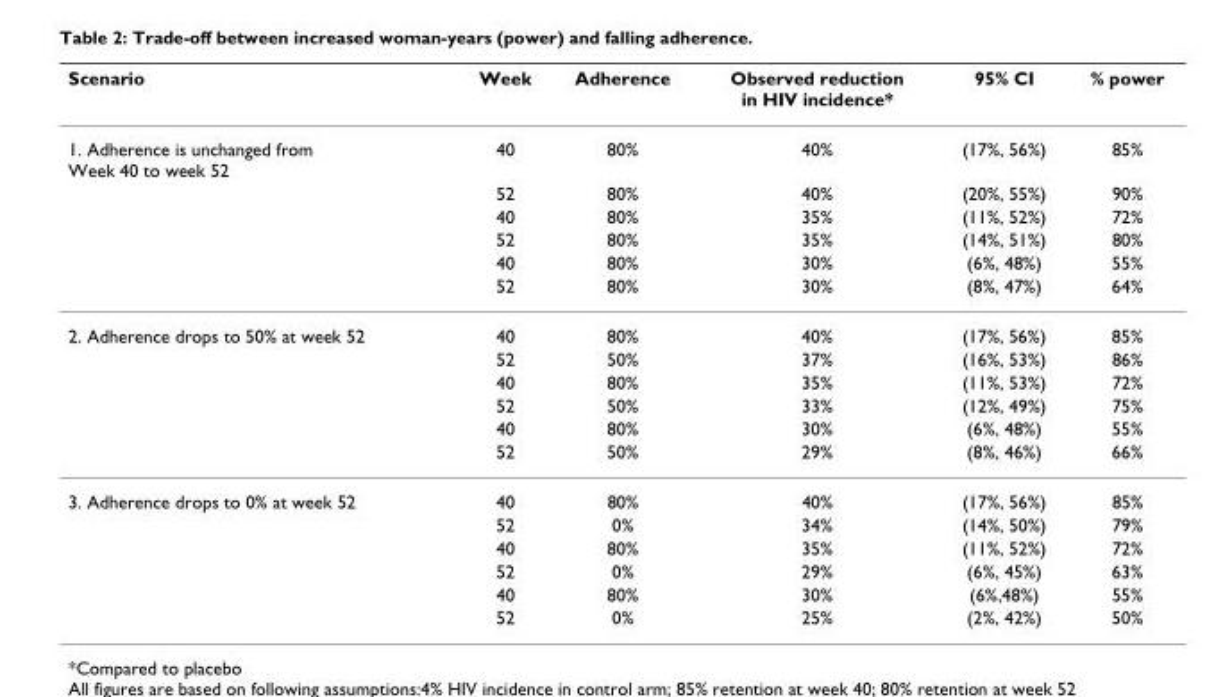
<table><thead><tr><td>Scenario</td><td>Week</td><td>Adherence</td><td>Observed reduction in HIV incidence*</td><td>95% CI</td><td>% power</td></tr></thead><tbody><tr><td rowspan="6">1. Adherence is unchanged from Week 40 to week 52</td><td>40</td><td>80%</td><td>40%</td><td>(17%, 56%)</td><td>85%</td></tr><tr><td>52</td><td>80%</td><td>40%</td><td>(20%, 55%)</td><td>90%</td></tr><tr><td>40</td><td>80%</td><td>35%</td><td>(11%, 52%)</td><td>72%</td></tr><tr><td>52</td><td>80%</td><td>35%</td><td>(14%, 51%)</td><td>80%</td></tr><tr><td>40</td><td>80%</td><td>30%</td><td>(6%, 48%)</td><td>55%</td></tr><tr><td>52</td><td>80%</td><td>30%</td><td>(8%, 47%)</td><td>64%</td></tr><tr><td rowspan="6">2. Adherence drops to 50% at week 52</td><td>40</td><td>80%</td><td>40%</td><td>(17%, 56%)</td><td>85%</td></tr><tr><td>52</td><td>50%</td><td>37%</td><td>(16%, 53%)</td><td>86%</td></tr><tr><td>40</td><td>80%</td><td>35%</td><td>(11%, 53%)</td><td>72%</td></tr><tr><td>52</td><td>50%</td><td>33%</td><td>(12%, 49%)</td><td>75%</td></tr><tr><td>40</td><td>80%</td><td>30%</td><td>(6%, 48%)</td><td>55%</td></tr><tr><td>52</td><td>50%</td><td>29%</td><td>(8%, 46%)</td><td>66%</td></tr><tr><td rowspan="6">3. Adherence drops to 0% at week 52</td><td>40</td><td>80%</td><td>40%</td><td>(17%, 56%)</td><td>85%</td></tr><tr><td>52</td><td>0%</td><td>34%</td><td>(14%, 50%)</td><td>79%</td></tr><tr><td>40</td><td>80%</td><td>35%</td><td>(11%, 52%)</td><td>72%</td></tr><tr><td>52</td><td>0%</td><td>29%</td><td>(6%, 45%)</td><td>63%</td></tr><tr><td>40</td><td>80%</td><td>30%</td><td>(6%,48%)</td><td>55%</td></tr><tr><td>52</td><td>0%</td><td>25%</td><td>(2%, 42%)</td><td>50%</td></tr></tbody></table>